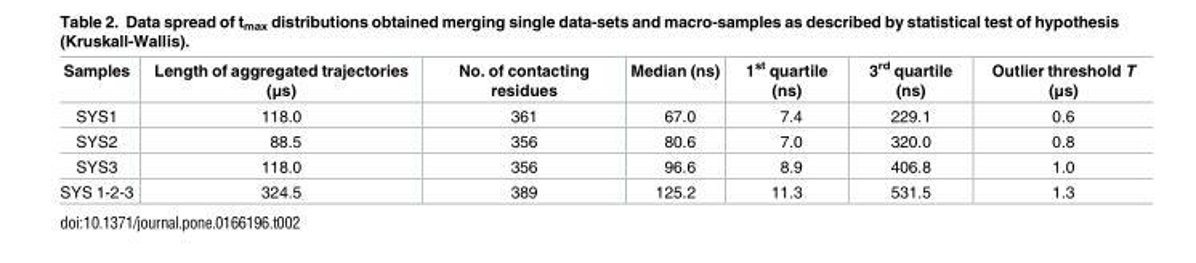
<table><thead><tr><td>Samples</td><td>Length of aggregated trajectories (μs)</td><td>No. of contacting residues</td><td>Median (ns)</td><td>1<sup>st</sup> quartile (ns)</td><td>3<sup>rd</sup> quartile (ns)</td><td>Outlier threshold T (μs)</td></tr></thead><tbody><tr><td>SYS1</td><td>118.0</td><td>361</td><td>67.0</td><td>7.4</td><td>229.1</td><td>0.6</td></tr><tr><td>SYS2</td><td>88.5</td><td>356</td><td>80.6</td><td>7.0</td><td>320.0</td><td>0.8</td></tr><tr><td>SYS3</td><td>118.0</td><td>356</td><td>96.6</td><td>8.9</td><td>406.8</td><td>1.0</td></tr><tr><td>SYS 1-2-3</td><td>324.5</td><td>389</td><td>125.2</td><td>11.3</td><td>531.5</td><td>1.3</td></tr></tbody></table>